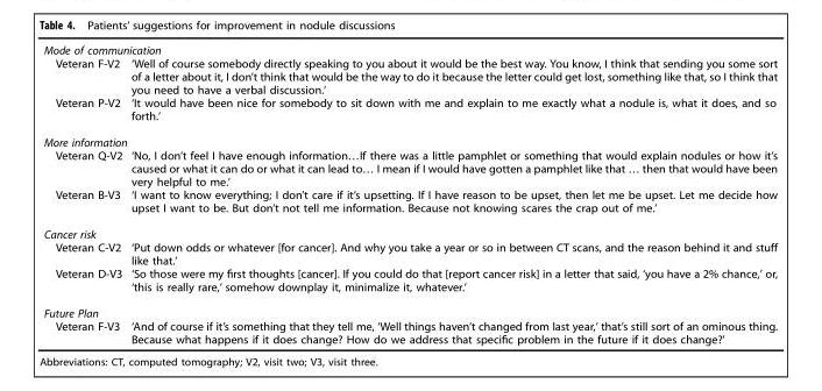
<table><tbody><tr><td colspan="2">Mode of communication</td></tr><tr><td>Veteran F-V2</td><td>‘Well of course somebody directly speaking to you about it would be the best way. You know, I think that sending you some sort of a letter about it, I don’t think that would be the way to do it because the letter could get lost, something like that, so I think that you need to have a verbal discussion.’</td></tr><tr><td>Veteran P-V2</td><td>‘It would have been nice for somebody to sit down with me and explain to me exactly what a nodule is, what it does, and so forth.’</td></tr><tr><td colspan="2">More information</td></tr><tr><td>Veteran Q-V2</td><td>‘No, I don’t feel I have enough information…If there was a little pamphlet or something that would explain nodules or how it’s caused or what it can do or what it can lead to… I mean if I would have gotten a pamphlet like that … then that would have been very helpful to me.’</td></tr><tr><td>Veteran B-V3</td><td>‘I want to know everything; I don’t care if it’s upsetting. If I have reason to be upset, then let me be upset. Let me decide how upset I want to be. But don’t not tell me information. Because not knowing scares the crap out of me.’</td></tr><tr><td colspan="2">Cancer risk</td></tr><tr><td>Veteran C-V2</td><td>‘Put down odds or whatever [for cancer]. And why you take a year or so in between CT scans, and the reason behind it and stuff like that.’</td></tr><tr><td>Veteran D-V3</td><td>‘So those were my first thoughts [cancer]. If you could do that [report cancer risk] in a letter that said, ‘you have a 2% chance,’ or, ‘this is really rare,’ somehow downplay it, minimalize it, whatever.’</td></tr><tr><td colspan="2">Future Plan</td></tr><tr><td>Veteran F-V3</td><td>‘And of course if it’s something that they tell me, ‘Well things haven’t changed from last year,’ that’s still sort of an ominous thing. Because what happens if it does change? How do we address that specific problem in the future if it does change?’</td></tr></tbody></table>